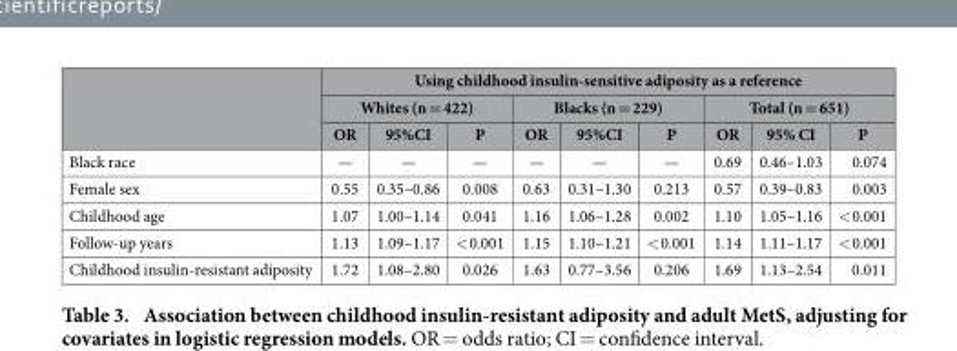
<table><thead><tr><td rowspan="3"></td><td colspan="9">Using childhood insulin-sensitive adiposity as a reference</td></tr><tr><td colspan="3">Whites (n = 422)</td><td colspan="3">Blacks (n = 229)</td><td colspan="3">Total (n = 651)</td></tr><tr><td>OR</td><td>95%CI</td><td>P</td><td>OR</td><td>95%CI</td><td>P</td><td>OR</td><td>95% CI</td><td>P</td></tr></thead><tbody><tr><td>Black race</td><td>—</td><td>—</td><td>—</td><td>—</td><td>—</td><td>—</td><td>0.69</td><td>0.46–1.03</td><td>0.074</td></tr><tr><td>Female sex</td><td>0.55</td><td>0.35–0.86</td><td>0.008</td><td>0.63</td><td>0.31–1.30</td><td>0.213</td><td>0.57</td><td>0.39–0.83</td><td>0.003</td></tr><tr><td>Childhood age</td><td>1.07</td><td>1.00–1.14</td><td>0.041</td><td>1.16</td><td>1.06–1.28</td><td>0.002</td><td>1.10</td><td>1.05–1.16</td><td>&lt; 0.001</td></tr><tr><td>Follow-up years</td><td>1.13</td><td>1.09–1.17</td><td>&lt; 0.001</td><td>1.15</td><td>1.10–1.21</td><td>&lt; 0.001</td><td>1.14</td><td>1.11–1.17</td><td>&lt; 0.001</td></tr><tr><td>Childhood insulin-resistant adiposity</td><td>1.72</td><td>1.08–2.80</td><td>0.026</td><td>1.63</td><td>0.77–3.56</td><td>0.206</td><td>1.69</td><td>1.13–2.54</td><td>0.011</td></tr></tbody></table>